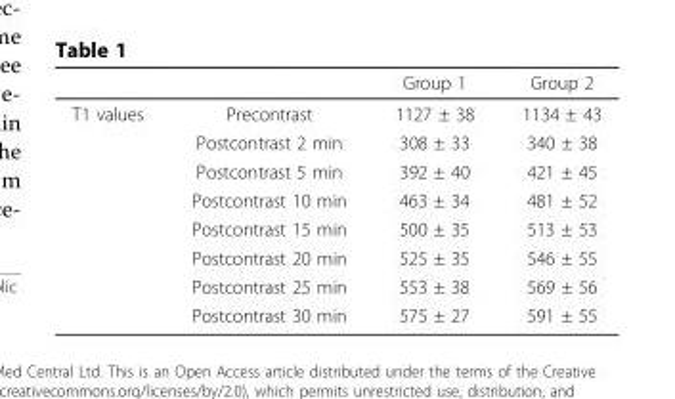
<table><thead><tr><td></td><td></td><td>Group 1</td><td>Group 2</td></tr></thead><tbody><tr><td rowspan="8">T1 values</td><td>Precontrast</td><td>1127 ± 38</td><td>1134 ± 43</td></tr><tr><td>Postcontrast 2 min</td><td>308 ± 33</td><td>340 ± 38</td></tr><tr><td>Postcontrast 5 min</td><td>392 ± 40</td><td>421 ± 45</td></tr><tr><td>Postcontrast 10 min</td><td>463 ± 34</td><td>481 ± 52</td></tr><tr><td>Postcontrast 15 min</td><td>500 ± 35</td><td>513 ± 53</td></tr><tr><td>Postcontrast 20 min</td><td>525 ± 35</td><td>546 ± 55</td></tr><tr><td>Postcontrast 25 min</td><td>553 ± 38</td><td>569 ± 56</td></tr><tr><td>Postcontrast 30 min</td><td>575 ± 27</td><td>591 ± 55</td></tr></tbody></table>